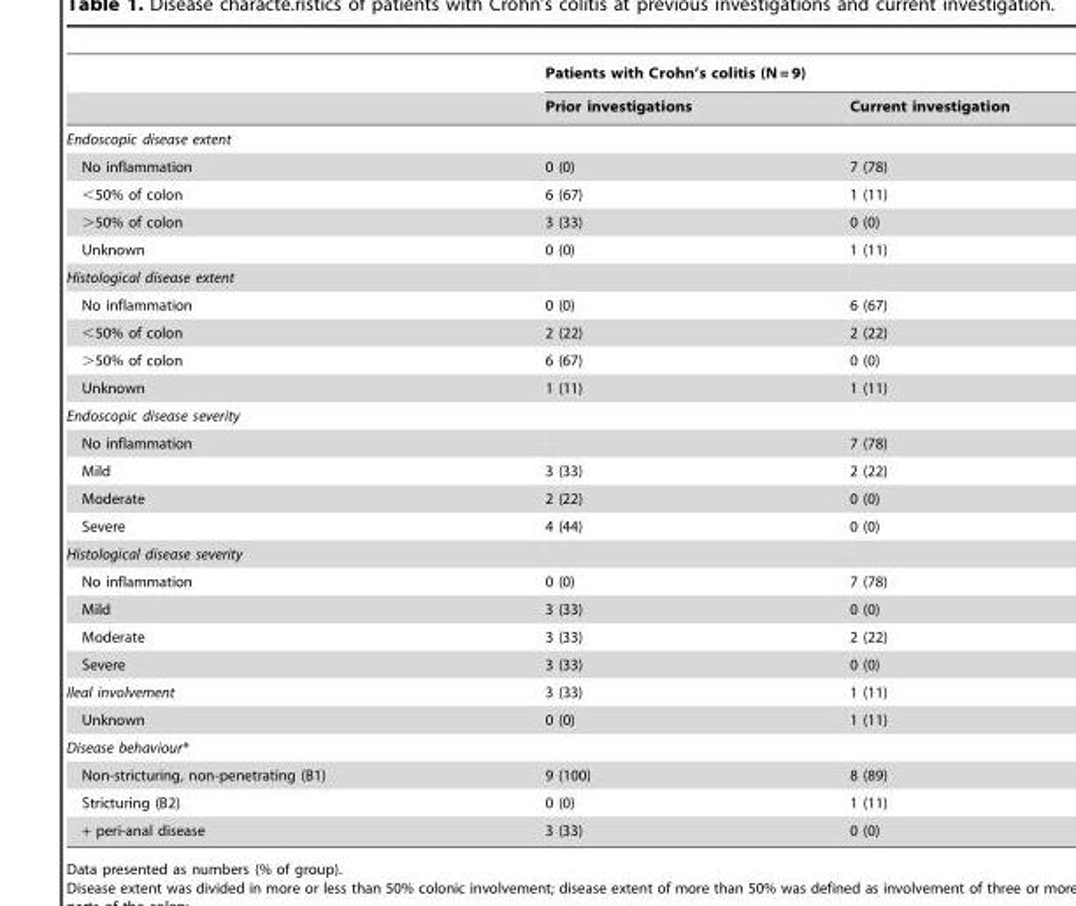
<table><thead><tr><td rowspan="2"></td><td colspan="2">Patients with Crohn’s colitis (N = 9)</td></tr><tr><td>Prior investigations</td><td>Current investigation</td></tr></thead><tbody><tr><td colspan="3">Endoscopic disease extent</td></tr><tr><td>No inflammation</td><td>0 (0)</td><td>7 (78)</td></tr><tr><td>&lt;50% of colon</td><td>6 (67)</td><td>1 (11)</td></tr><tr><td>&gt;50% of colon</td><td>3 (33)</td><td>0 (0)</td></tr><tr><td>Unknown</td><td>0 (0)</td><td>1 (11)</td></tr><tr><td colspan="3">Histological disease extent</td></tr><tr><td>No inflammation</td><td>0 (0)</td><td>6 (67)</td></tr><tr><td>&lt;50% of colon</td><td>2 (22)</td><td>2 (22)</td></tr><tr><td>&gt;50% of colon</td><td>6 (67)</td><td>0 (0)</td></tr><tr><td>Unknown</td><td>1 (11)</td><td>1 (11)</td></tr><tr><td colspan="3">Endoscopic disease severity</td></tr><tr><td>No inflammation</td><td></td><td>7 (78)</td></tr><tr><td>Mild</td><td>3 (33)</td><td>2 (22)</td></tr><tr><td>Moderate</td><td>2 (22)</td><td>0 (0)</td></tr><tr><td>Severe</td><td>4 (44)</td><td>0 (0)</td></tr><tr><td colspan="3">Histological disease severity</td></tr><tr><td>No inflammation</td><td>0 (0)</td><td>7 (78)</td></tr><tr><td>Mild</td><td>3 (33)</td><td>0 (0)</td></tr><tr><td>Moderate</td><td>3 (33)</td><td>2 (22)</td></tr><tr><td>Severe</td><td>3 (33)</td><td>0 (0)</td></tr><tr><td>Ileal involvement</td><td>3 (33)</td><td>1 (11)</td></tr><tr><td>Unknown</td><td>0 (0)</td><td>1 (11)</td></tr><tr><td colspan="3">Disease behaviour*</td></tr><tr><td>Non-stricturing, non-penetrating (B1)</td><td>9 (100)</td><td>8 (89)</td></tr><tr><td>Stricturing (B2)</td><td>0 (0)</td><td>1 (11)</td></tr><tr><td>+ peri-anal disease</td><td>3 (33)</td><td>0 (0)</td></tr></tbody></table>